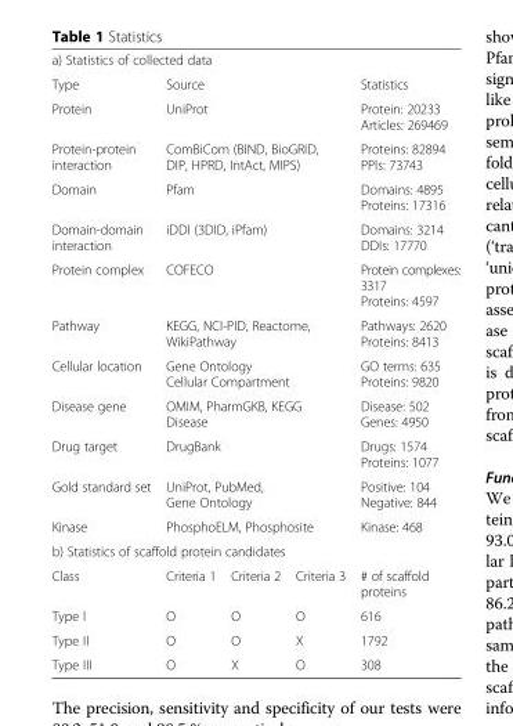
<table><tbody><tr><td colspan="5">a) Statistics of collected data</td></tr><tr><td>Type</td><td colspan="3">Source</td><td>Statistics</td></tr><tr><td>Protein</td><td colspan="3">UniProt</td><td>Protein: 20233 Articles: 269469</td></tr><tr><td>Protein-protein interaction</td><td colspan="3">ComBiCom (BIND, BioGRID, DIP, HPRD, IntAct, MIPS)</td><td>Proteins: 82894 PPIs: 73743</td></tr><tr><td>Domain</td><td colspan="3">Pfam</td><td>Domains: 4895 Proteins: 17316</td></tr><tr><td>Domain-domain interaction</td><td colspan="3">iDDI (3DID, iPfam)</td><td>Domains: 3214 DDIs: 17770</td></tr><tr><td>Protein complex</td><td colspan="3">COFECO</td><td>Protein complexes: 3317 Proteins: 4597</td></tr><tr><td>Pathway</td><td colspan="3">KEGG, NCI-PID, Reactome, WikiPathway</td><td>Pathways: 2620 Proteins: 8413</td></tr><tr><td>Cellular location</td><td colspan="3">Gene Ontology Cellular Compartment</td><td>GO terms: 635 Proteins: 9820</td></tr><tr><td>Disease gene</td><td colspan="3">OMIM, PharmGKB, KEGG Disease</td><td>Disease: 502 Genes: 4950</td></tr><tr><td>Drug target</td><td colspan="3">DrugBank</td><td>Drugs: 1574 Proteins: 1077</td></tr><tr><td>Gold standard set</td><td colspan="3">UniProt, PubMed, Gene Ontology</td><td>Positive: 104 Negative: 844</td></tr><tr><td>Kinase</td><td colspan="3">PhosphoELM, Phosphosite</td><td>Kinase: 468</td></tr><tr><td colspan="5">b) Statistics of scaffold protein candidates</td></tr><tr><td>Class</td><td>Criteria 1</td><td>Criteria 2</td><td>Criteria 3</td><td># of scaffold proteins</td></tr><tr><td>Type I</td><td>O</td><td>O</td><td>O</td><td>616</td></tr><tr><td>Type II</td><td>O</td><td>O</td><td>X</td><td>1792</td></tr><tr><td>Type III</td><td>O</td><td>X</td><td>O</td><td>308</td></tr></tbody></table>